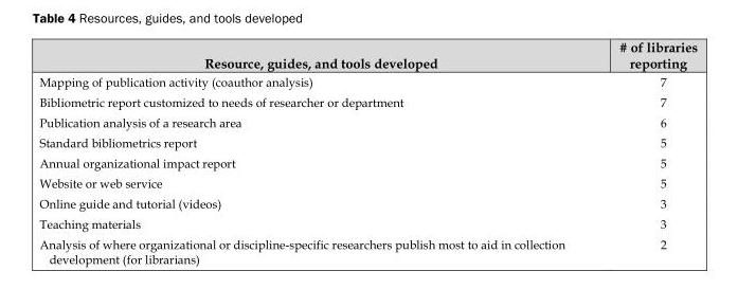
<table><thead><tr><td>Resource, guides, and tools developed</td><td># of libraries reporting</td></tr></thead><tbody><tr><td>Mapping of publication activity (coauthor analysis)</td><td>7</td></tr><tr><td>Bibliometric report customized to needs of researcher or department</td><td>7</td></tr><tr><td>Publication analysis of a research area</td><td>6</td></tr><tr><td>Standard bibliometrics report</td><td>5</td></tr><tr><td>Annual organizational impact report</td><td>5</td></tr><tr><td>Website or web service</td><td>5</td></tr><tr><td>Online guide and tutorial (videos)</td><td>3</td></tr><tr><td>Teaching materials</td><td>3</td></tr><tr><td>Analysis of where organizational or discipline-specific researchers publish most to aid in collection development (for librarians)</td><td>2</td></tr></tbody></table>